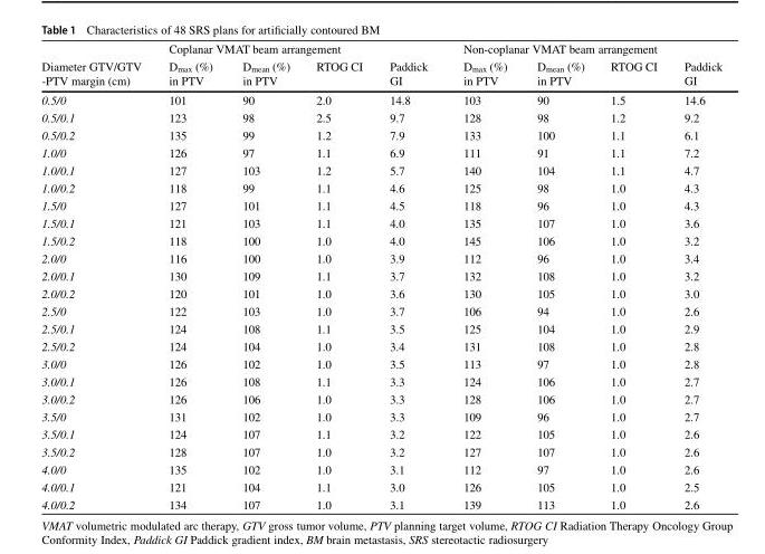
<table><thead><tr><td rowspan="2">Diameter GTV/GTV -PTV margin (cm)</td><td colspan="4">Coplanar VMAT beam arrangement</td><td colspan="4">Non-coplanar VMAT beam arrangement</td></tr><tr><td>D<sub>max</sub> (%) in PTV</td><td>D<sub>mean</sub> (%) in PTV</td><td>RTOG CI</td><td>Paddick GI</td><td>D<sub>max</sub> (%) in PTV</td><td>D<sub>mean</sub> (%) in PTV</td><td>RTOG CI</td><td>Paddick GI</td></tr></thead><tbody><tr><td>0.5/0</td><td>101</td><td>90</td><td>2.0</td><td>14.8</td><td>103</td><td>90</td><td>1.5</td><td>14.6</td></tr><tr><td>0.5/0.1</td><td>123</td><td>98</td><td>2.5</td><td>9.7</td><td>128</td><td>98</td><td>1.2</td><td>9.2</td></tr><tr><td>0.5/0.2</td><td>135</td><td>99</td><td>1.2</td><td>7.9</td><td>133</td><td>100</td><td>1.1</td><td>6.1</td></tr><tr><td>1.0/0</td><td>126</td><td>97</td><td>1.1</td><td>6.9</td><td>111</td><td>91</td><td>1.1</td><td>7.2</td></tr><tr><td>1.0/0.1</td><td>127</td><td>103</td><td>1.2</td><td>5.7</td><td>140</td><td>104</td><td>1.1</td><td>4.7</td></tr><tr><td>1.0/0.2</td><td>118</td><td>99</td><td>1.1</td><td>4.6</td><td>125</td><td>98</td><td>1.0</td><td>4.3</td></tr><tr><td>1.5/0</td><td>127</td><td>101</td><td>1.1</td><td>4.5</td><td>118</td><td>96</td><td>1.0</td><td>4.3</td></tr><tr><td>1.5/0.1</td><td>121</td><td>103</td><td>1.1</td><td>4.0</td><td>135</td><td>107</td><td>1.0</td><td>3.6</td></tr><tr><td>1.5/0.2</td><td>118</td><td>100</td><td>1.0</td><td>4.0</td><td>145</td><td>106</td><td>1.0</td><td>3.2</td></tr><tr><td>2.0/0</td><td>116</td><td>100</td><td>1.0</td><td>3.9</td><td>112</td><td>96</td><td>1.0</td><td>3.4</td></tr><tr><td>2.0/0.1</td><td>130</td><td>109</td><td>1.1</td><td>3.7</td><td>132</td><td>108</td><td>1.0</td><td>3.2</td></tr><tr><td>2.0/0.2</td><td>120</td><td>101</td><td>1.0</td><td>3.6</td><td>130</td><td>105</td><td>1.0</td><td>3.0</td></tr><tr><td>2.5/0</td><td>122</td><td>103</td><td>1.0</td><td>3.7</td><td>106</td><td>94</td><td>1.0</td><td>2.6</td></tr><tr><td>2.5/0.1</td><td>124</td><td>108</td><td>1.1</td><td>3.5</td><td>125</td><td>104</td><td>1.0</td><td>2.9</td></tr><tr><td>2.5/0.2</td><td>124</td><td>104</td><td>1.0</td><td>3.4</td><td>131</td><td>108</td><td>1.0</td><td>2.8</td></tr><tr><td>3.0/0</td><td>126</td><td>102</td><td>1.0</td><td>3.5</td><td>113</td><td>97</td><td>1.0</td><td>2.8</td></tr><tr><td>3.0/0.1</td><td>126</td><td>108</td><td>1.1</td><td>3.3</td><td>124</td><td>106</td><td>1.0</td><td>2.7</td></tr><tr><td>3.0/0.2</td><td>126</td><td>106</td><td>1.0</td><td>3.3</td><td>128</td><td>106</td><td>1.0</td><td>2.7</td></tr><tr><td>3.5/0</td><td>131</td><td>102</td><td>1.0</td><td>3.3</td><td>109</td><td>96</td><td>1.0</td><td>2.7</td></tr><tr><td>3.5/0.1</td><td>124</td><td>107</td><td>1.1</td><td>3.2</td><td>122</td><td>105</td><td>1.0</td><td>2.6</td></tr><tr><td>3.5/0.2</td><td>128</td><td>107</td><td>1.0</td><td>3.2</td><td>127</td><td>107</td><td>1.0</td><td>2.6</td></tr><tr><td>4.0/0</td><td>135</td><td>102</td><td>1.0</td><td>3.1</td><td>112</td><td>97</td><td>1.0</td><td>2.6</td></tr><tr><td>4.0/0.1</td><td>121</td><td>104</td><td>1.1</td><td>3.0</td><td>126</td><td>105</td><td>1.0</td><td>2.5</td></tr><tr><td>4.0/0.2</td><td>134</td><td>107</td><td>1.0</td><td>3.1</td><td>139</td><td>113</td><td>1.0</td><td>2.6</td></tr></tbody></table>